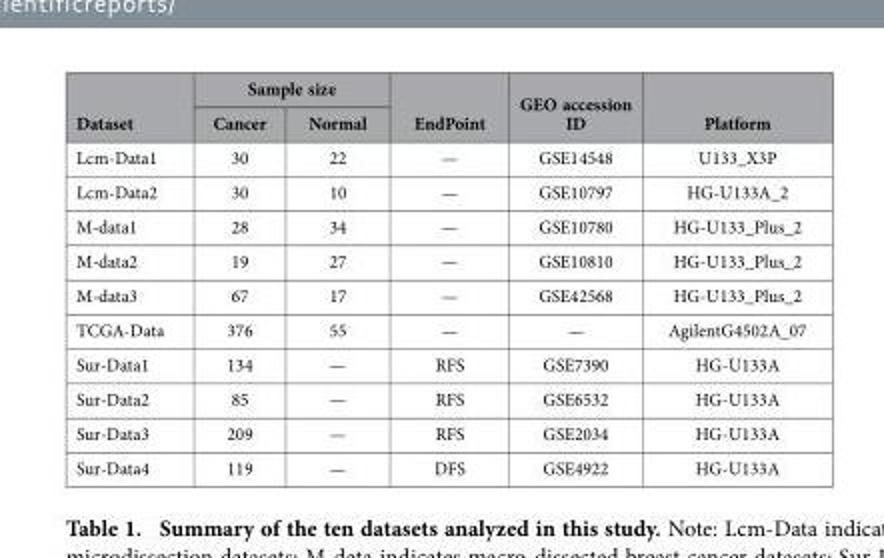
<table><thead><tr><td rowspan="2">Dataset</td><td colspan="2">Sample size</td><td rowspan="2">EndPoint</td><td rowspan="2">GEO accession ID</td><td rowspan="2">Platform</td></tr><tr><td>Cancer</td><td>Normal</td></tr></thead><tbody><tr><td>Lcm-Data1</td><td>30</td><td>22</td><td>—</td><td>GSE14548</td><td>U133_X3P</td></tr><tr><td>Lcm-Data2</td><td>30</td><td>10</td><td>—</td><td>GSE10797</td><td>HG-U133A_2</td></tr><tr><td>M-data1</td><td>28</td><td>34</td><td>—</td><td>GSE10780</td><td>HG-U133_Plus_2</td></tr><tr><td>M-data2</td><td>19</td><td>27</td><td>—</td><td>GSE10810</td><td>HG-U133_Plus_2</td></tr><tr><td>M-data3</td><td>67</td><td>17</td><td>—</td><td>GSE42568</td><td>HG-U133_Plus_2</td></tr><tr><td>TCGA-Data</td><td>376</td><td>55</td><td>—</td><td>—</td><td>AgilentG4502A_07</td></tr><tr><td>Sur-Data1</td><td>134</td><td>—</td><td>RFS</td><td>GSE7390</td><td>HG-U133A</td></tr><tr><td>Sur-Data2</td><td>85</td><td>—</td><td>RFS</td><td>GSE6532</td><td>HG-U133A</td></tr><tr><td>Sur-Data3</td><td>209</td><td>—</td><td>RFS</td><td>GSE2034</td><td>HG-U133A</td></tr><tr><td>Sur-Data4</td><td>119</td><td>—</td><td>DFS</td><td>GSE4922</td><td>HG-U133A</td></tr></tbody></table>